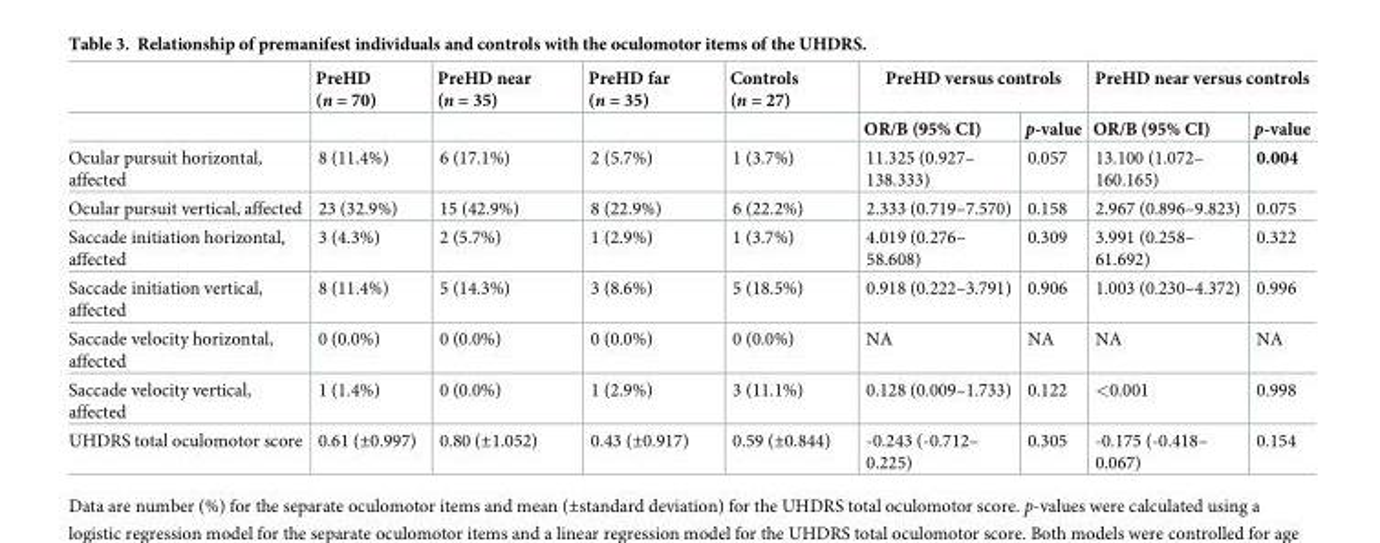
<table><thead><tr><td rowspan="2"></td><td rowspan="2">PreHD (n = 70)</td><td rowspan="2">PreHD near (n = 35)</td><td rowspan="2">PreHD far (n = 35)</td><td rowspan="2">Controls (n = 27)</td><td colspan="2">PreHD versus controls</td><td colspan="2">PreHD near versus controls</td></tr><tr><td>OR/B (95% CI)</td><td>p-value</td><td>OR/B (95% CI)</td><td>p-value</td></tr></thead><tbody><tr><td>Ocular pursuit horizontal, affected</td><td>8 (11.4%)</td><td>6 (17.1%)</td><td>2 (5.7%)</td><td>1 (3.7%)</td><td>11.325 (0.927– 138.333)</td><td>0.057</td><td>13.100 (1.072– 160.165)</td><td>0.004</td></tr><tr><td>Ocular pursuit vertical, affected</td><td>23 (32.9%)</td><td>15 (42.9%)</td><td>8 (22.9%)</td><td>6 (22.2%)</td><td>2.333 (0.719–7.570)</td><td>0.158</td><td>2.967 (0.896–9.823)</td><td>0.075</td></tr><tr><td>Saccade initiation horizontal, affected</td><td>3 (4.3%)</td><td>2 (5.7%)</td><td>1 (2.9%)</td><td>1 (3.7%)</td><td>4.019 (0.276– 58.608)</td><td>0.309</td><td>3.991 (0.258– 61.692)</td><td>0.322</td></tr><tr><td>Saccade initiation vertical, affected</td><td>8 (11.4%)</td><td>5 (14.3%)</td><td>3 (8.6%)</td><td>5 (18.5%)</td><td>0.918 (0.222–3.791)</td><td>0.906</td><td>1.003 (0.230–4.372)</td><td>0.996</td></tr><tr><td>Saccade velocity horizontal, affected</td><td>0 (0.0%)</td><td>0 (0.0%)</td><td>0 (0.0%)</td><td>0 (0.0%)</td><td>NA</td><td>NA</td><td>NA</td><td>NA</td></tr><tr><td>Saccade velocity vertical, affected</td><td>1 (1.4%)</td><td>0 (0.0%)</td><td>1 (2.9%)</td><td>3 (11.1%)</td><td>0.128 (0.009–1.733)</td><td>0.122</td><td>&lt;0.001</td><td>0.998</td></tr><tr><td>UHDRS total oculomotor score</td><td>0.61 (±0.997)</td><td>0.80 (±1.052)</td><td>0.43 (±0.917)</td><td>0.59 (±0.844)</td><td>-0.243 (-0.712– 0.225)</td><td>0.305</td><td>-0.175 (-0.418– 0.067)</td><td>0.154</td></tr></tbody></table>